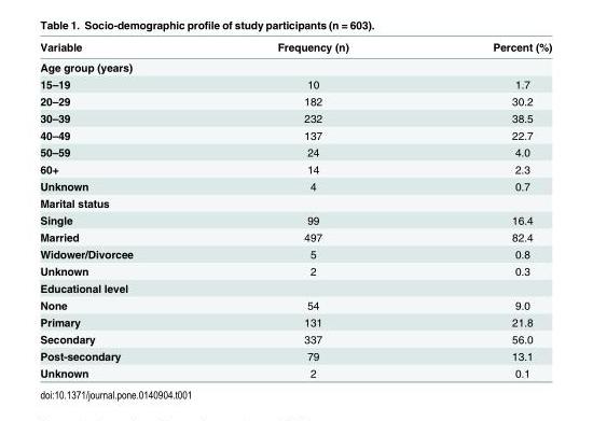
<table><thead><tr><td>Variable</td><td>Frequency (n)</td><td>Percent (%)</td></tr></thead><tbody><tr><td colspan="3">Age group (years)</td></tr><tr><td>15–19</td><td>10</td><td>1.7</td></tr><tr><td>20–29</td><td>182</td><td>30.2</td></tr><tr><td>30–39</td><td>232</td><td>38.5</td></tr><tr><td>40–49</td><td>137</td><td>22.7</td></tr><tr><td>50–59</td><td>24</td><td>4.0</td></tr><tr><td>60+</td><td>14</td><td>2.3</td></tr><tr><td>Unknown</td><td>4</td><td>0.7</td></tr><tr><td colspan="3">Marital status</td></tr><tr><td>Single</td><td>99</td><td>16.4</td></tr><tr><td>Married</td><td>497</td><td>82.4</td></tr><tr><td>Widower/Divorcee</td><td>5</td><td>0.8</td></tr><tr><td>Unknown</td><td>2</td><td>0.3</td></tr><tr><td colspan="3">Educational level</td></tr><tr><td>None</td><td>54</td><td>9.0</td></tr><tr><td>Primary</td><td>131</td><td>21.8</td></tr><tr><td>Secondary</td><td>337</td><td>56.0</td></tr><tr><td>Post-secondary</td><td>79</td><td>13.1</td></tr><tr><td>Unknown</td><td>2</td><td>0.1</td></tr></tbody></table>